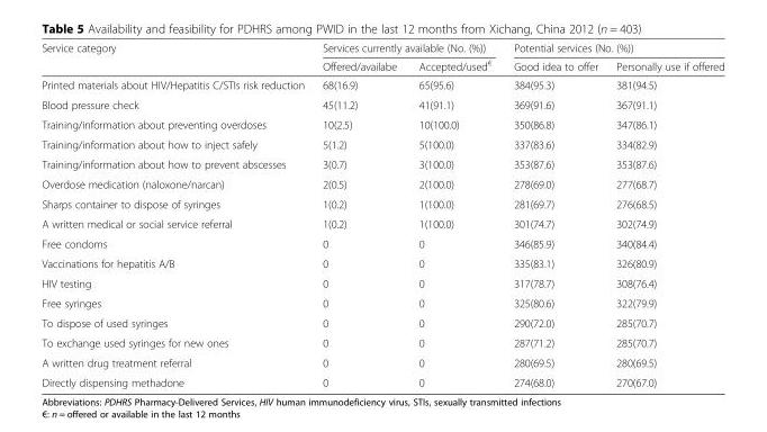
<table><thead><tr><td rowspan="2">Service category</td><td colspan="2">Services currently available (No. (%))</td><td colspan="2">Potential services (No. (%))</td></tr><tr><td>Offered/availabe</td><td>Accepted/used<sup>€</sup></td><td>Good idea to offer</td><td>Personally use if offered</td></tr></thead><tbody><tr><td>Printed materials about HIV/Hepatitis C/STIs risk reduction</td><td>68(16.9)</td><td>65(95.6)</td><td>384(95.3)</td><td>381(94.5)</td></tr><tr><td>Blood pressure check</td><td>45(11.2)</td><td>41(91.1)</td><td>369(91.6)</td><td>367(91.1)</td></tr><tr><td>Training/information about preventing overdoses</td><td>10(2.5)</td><td>10(100.0)</td><td>350(86.8)</td><td>347(86.1)</td></tr><tr><td>Training/information about how to inject safely</td><td>5(1.2)</td><td>5(100.0)</td><td>337(83.6)</td><td>334(82.9)</td></tr><tr><td>Training/information about how to prevent abscesses</td><td>3(0.7)</td><td>3(100.0)</td><td>353(87.6)</td><td>353(87.6)</td></tr><tr><td>Overdose medication (naloxone/narcan)</td><td>2(0.5)</td><td>2(100.0)</td><td>278(69.0)</td><td>277(68.7)</td></tr><tr><td>Sharps container to dispose of syringes</td><td>1(0.2)</td><td>1(100.0)</td><td>281(69.7)</td><td>276(68.5)</td></tr><tr><td>A written medical or social service referral</td><td>1(0.2)</td><td>1(100.0)</td><td>301(74.7)</td><td>302(74.9)</td></tr><tr><td>Free condoms</td><td>0</td><td>0</td><td>346(85.9)</td><td>340(84.4)</td></tr><tr><td>Vaccinations for hepatitis A/B</td><td>0</td><td>0</td><td>335(83.1)</td><td>326(80.9)</td></tr><tr><td>HIV testing</td><td>0</td><td>0</td><td>317(78.7)</td><td>308(76.4)</td></tr><tr><td>Free syringes</td><td>0</td><td>0</td><td>325(80.6)</td><td>322(79.9)</td></tr><tr><td>To dispose of used syringes</td><td>0</td><td>0</td><td>290(72.0)</td><td>285(70.7)</td></tr><tr><td>To exchange used syringes for new ones</td><td>0</td><td>0</td><td>287(71.2)</td><td>285(70.7)</td></tr><tr><td>A written drug treatment referral</td><td>0</td><td>0</td><td>280(69.5)</td><td>280(69.5)</td></tr><tr><td>Directly dispensing methadone</td><td>0</td><td>0</td><td>274(68.0)</td><td>270(67.0)</td></tr></tbody></table>